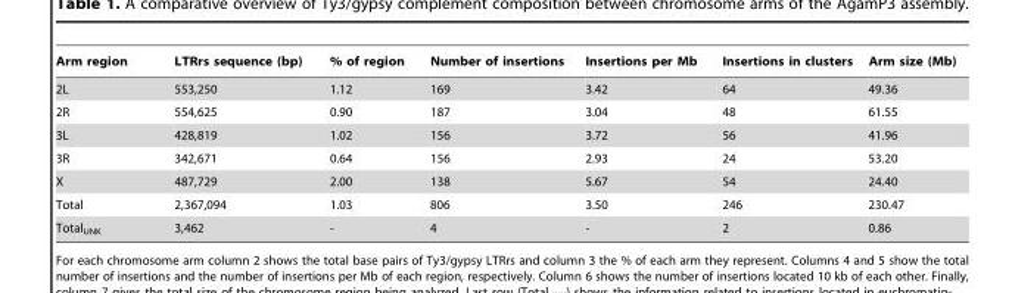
<table><thead><tr><td>Arm region</td><td>LTRrs sequence (bp)</td><td>% of region</td><td>Number of insertions</td><td>Insertions per Mb</td><td>Insertions in clusters</td><td>Arm size (Mb)</td></tr></thead><tbody><tr><td>2L</td><td>553,250</td><td>1.12</td><td>169</td><td>3.42</td><td>64</td><td>49.36</td></tr><tr><td>2R</td><td>554,625</td><td>0.90</td><td>187</td><td>3.04</td><td>48</td><td>61.55</td></tr><tr><td>3L</td><td>428,819</td><td>1.02</td><td>156</td><td>3.72</td><td>56</td><td>41.96</td></tr><tr><td>3R</td><td>342,671</td><td>0.64</td><td>156</td><td>2.93</td><td>24</td><td>53.20</td></tr><tr><td>X</td><td>487,729</td><td>2.00</td><td>138</td><td>5.67</td><td>54</td><td>24.40</td></tr><tr><td>Total</td><td>2,367,094</td><td>1.03</td><td>806</td><td>3.50</td><td>246</td><td>230.47</td></tr><tr><td>Total<sub>UNK</sub></td><td>3,462</td><td>-</td><td>4</td><td>-</td><td>2</td><td>0.86</td></tr></tbody></table>